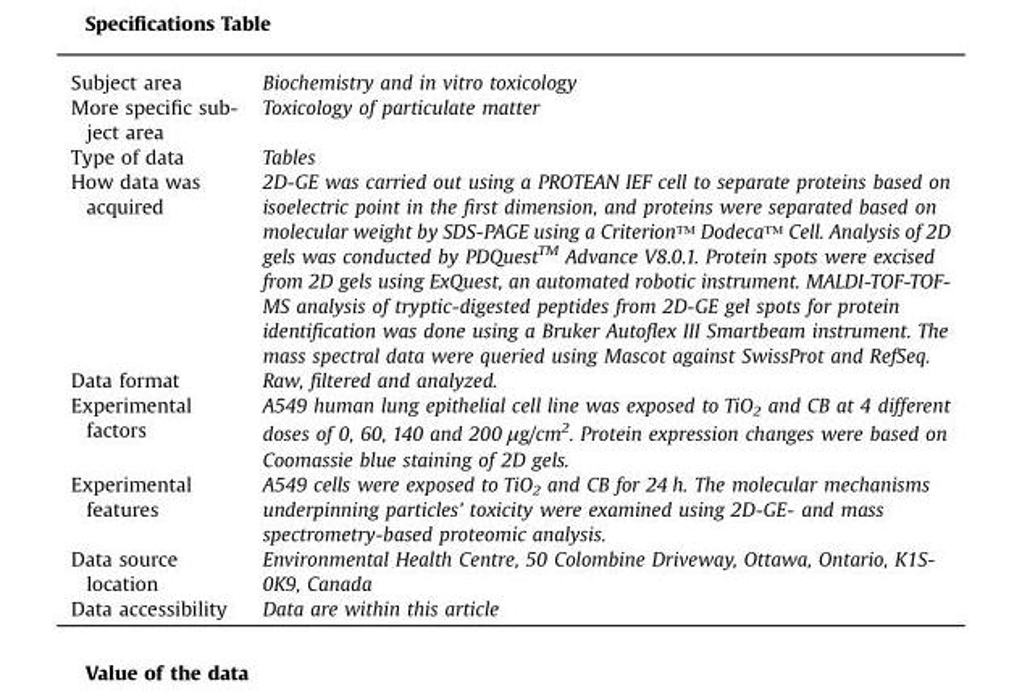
<table><tbody><tr><td>Subject area</td><td>Biochemistry and in vitro toxicology</td></tr><tr><td>More specific sub- ject area</td><td>Toxicology of particulate matter</td></tr><tr><td>Type of data</td><td>Tables</td></tr><tr><td>How data was acquired</td><td>2D-GE was carried out using a PROTEAN IEF cell to separate proteins based on isoelectric point in the first dimension, and proteins were separated based on molecular weight by SDS-PAGE using a Criterion™ Dodeca™ Cell. Analysis of 2D gels was conducted by PDQuest<sup>TM</sup> Advance V8.0.1. Protein spots were excised from 2D gels using ExQuest, an automated robotic instrument. MALDI-TOF-TOF- MS analysis of tryptic-digested peptides from 2D-GE gel spots for protein identification was done using a Bruker Autoflex III Smartbeam instrument. The mass spectral data were queried using Mascot against SwissProt and RefSeq.</td></tr><tr><td>Data format</td><td>Raw, filtered and analyzed.</td></tr><tr><td>Experimental factors</td><td>A549 human lung epithelial cell line was exposed to TiO<sub>2</sub> and CB at 4 different doses of 0, 60, 140 and 200 μg/cm<sup>2</sup>. Protein expression changes were based on Coomassie blue staining of 2D gels.</td></tr><tr><td>Experimental features</td><td>A549 cells were exposed to TiO<sub>2</sub> and CB for 24 h. The molecular mechanisms underpinning particles’ toxicity were examined using 2D-GE- and mass spectrometry-based proteomic analysis.</td></tr><tr><td>Data source location</td><td>Environmental Health Centre, 50 Colombine Driveway, Ottawa, Ontario, K1S- 0K9, Canada</td></tr><tr><td>Data accessibility</td><td>Data are within this article</td></tr></tbody></table>